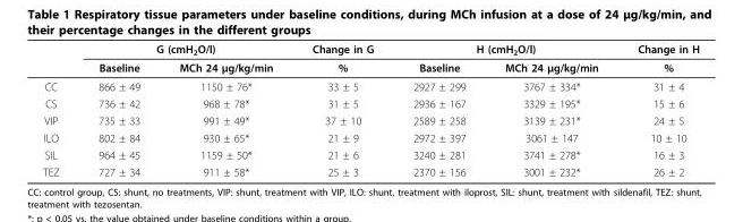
<table><thead><tr><td rowspan="2"></td><td colspan="2">G (cmH<sub>2</sub>O/l)</td><td rowspan="2">Change in G %</td><td colspan="2">H (cmH<sub>2</sub>O/l)</td><td rowspan="2">Change in H %</td></tr><tr><td>Baseline</td><td>MCh 24 μg/kg/min</td><td>Baseline</td><td>MCh 24 μg/kg/min</td></tr></thead><tbody><tr><td>CC</td><td>866 ± 49</td><td>1150 ± 76*</td><td>33 ± 5</td><td>2927 ± 299</td><td>3767 ± 334*</td><td>31 ± 4</td></tr><tr><td>CS</td><td>736 ± 42</td><td>968 ± 78*</td><td>31 ± 5</td><td>2936 ± 167</td><td>3329 ± 195*</td><td>15 ± 6</td></tr><tr><td>VIP</td><td>735 ± 33</td><td>991 ± 49*</td><td>37 ± 10</td><td>2589 ± 258</td><td>3139 ± 231*</td><td>24 ± 5</td></tr><tr><td>ILO</td><td>802 ± 84</td><td>930 ± 65*</td><td>21 ± 9</td><td>2972 ± 397</td><td>3061 ± 147</td><td>10 ± 10</td></tr><tr><td>SIL</td><td>964 ± 45</td><td>1159 ± 50*</td><td>21 ± 6</td><td>3240 ± 281</td><td>3741 ± 278*</td><td>16 ± 3</td></tr><tr><td>TEZ</td><td>727 ± 34</td><td>911 ± 58*</td><td>25 ± 3</td><td>2370 ± 156</td><td>3001 ± 232*</td><td>26 ± 2</td></tr></tbody></table>